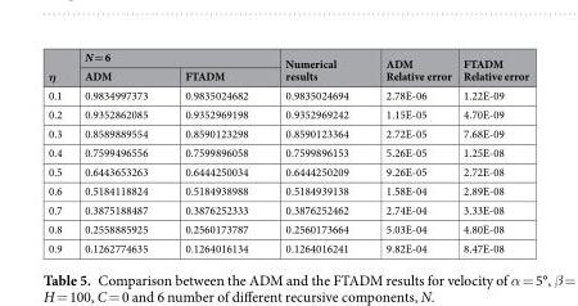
<table><thead><tr><td rowspan="2">η</td><td colspan="2">N = 6</td><td rowspan="2">Numerical results</td><td rowspan="2">ADM Relative error</td><td rowspan="2">FTADM Relative error</td></tr><tr><td>ADM</td><td>FTADM</td></tr></thead><tbody><tr><td>0.1</td><td>0.9834997373</td><td>0.9835024682</td><td>0.9835024694</td><td>2.78E-06</td><td>1.22E-09</td></tr><tr><td>0.2</td><td>0.9352862085</td><td>0.9352969198</td><td>0.9352969242</td><td>1.15E-05</td><td>4.70E-09</td></tr><tr><td>0.3</td><td>0.8589889554</td><td>0.8590123298</td><td>0.8590123364</td><td>2.72E-05</td><td>7.68E-09</td></tr><tr><td>0.4</td><td>0.7599496556</td><td>0.7599896058</td><td>0.7599896153</td><td>5.26E-05</td><td>1.25E-08</td></tr><tr><td>0.5</td><td>0.6443653263</td><td>0.6444250034</td><td>0.6444250209</td><td>9.26E-05</td><td>2.72E-08</td></tr><tr><td>0.6</td><td>0.5184118824</td><td>0.5184938988</td><td>0.5184939138</td><td>1.58E-04</td><td>2.89E-08</td></tr><tr><td>0.7</td><td>0.3875188487</td><td>0.3876252333</td><td>0.3876252462</td><td>2.74E-04</td><td>3.33E-08</td></tr><tr><td>0.8</td><td>0.2558885925</td><td>0.2560173787</td><td>0.2560173664</td><td>5.03E-04</td><td>4.80E-08</td></tr><tr><td>0.9</td><td>0.1262774635</td><td>0.1264016134</td><td>0.1264016241</td><td>9.82E-04</td><td>8.47E-08</td></tr></tbody></table>